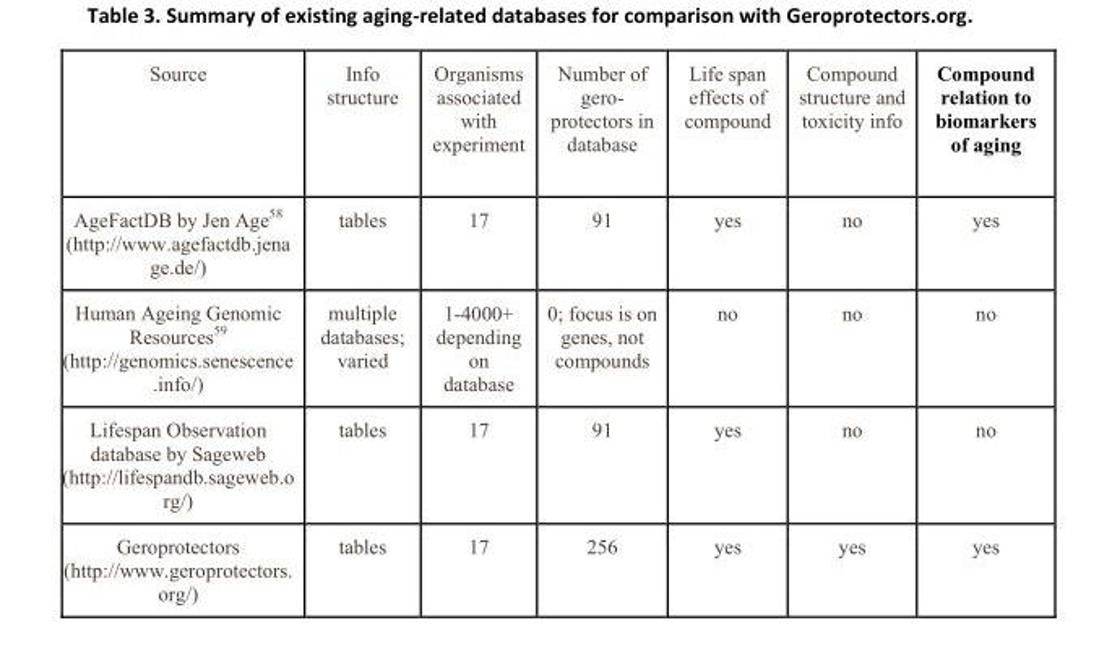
<table><thead><tr><td>Source</td><td>Info structure</td><td>Organisms associated with experiment</td><td>Number of gero- protectors in database</td><td>Life span effects of compound</td><td>Compound structure and toxicity info</td><td>Compound relation to biomarkers of aging</td></tr></thead><tbody><tr><td>AgeFactDB by Jen Age<sup>58</sup> (http://www.agefactdb.jena ge.de/)</td><td>tables</td><td>17</td><td>91</td><td>yes</td><td>no</td><td>yes</td></tr><tr><td>Human Ageing Genomic Resources<sup>59</sup> (http://genomics.senescence .info/)</td><td>multiple databases; varied</td><td>1-4000+ depending on database</td><td>0; focus is on genes, not compounds</td><td>no</td><td>no</td><td>no</td></tr><tr><td>Lifespan Observation database by Sageweb (http://lifespandb.sageweb.o rg/)</td><td>tables</td><td>17</td><td>91</td><td>yes</td><td>no</td><td>no</td></tr><tr><td>Geroprotectors (http://www.geroprotectors. org/)</td><td>tables</td><td>17</td><td>256</td><td>yes</td><td>yes</td><td>yes</td></tr></tbody></table>